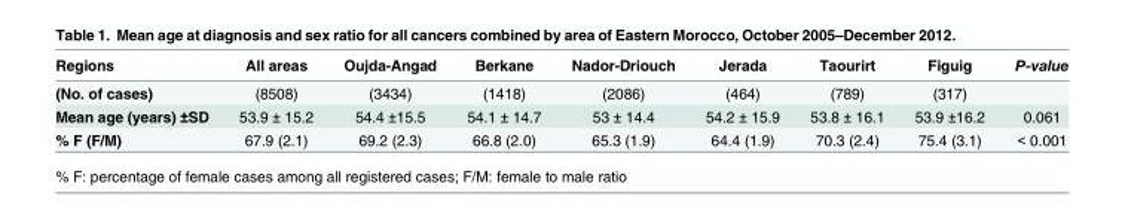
<table><thead><tr><td>Regions</td><td>All areas</td><td>Oujda-Angad</td><td>Berkane</td><td>Nador-Driouch</td><td>Jerada</td><td>Taourirt</td><td>Figuig</td><td>P-value</td></tr></thead><tbody><tr><td>(No. of cases)</td><td>(8508)</td><td>(3434)</td><td>(1418)</td><td>(2086)</td><td>(464)</td><td>(789)</td><td>(317)</td><td></td></tr><tr><td>Mean age (years) ±SD</td><td>53.9 ± 15.2</td><td>54.4 ±15.5</td><td>54.1 ± 14.7</td><td>53 ± 14.4</td><td>54.2 ± 15.9</td><td>53.8 ± 16.1</td><td>53.9 ±16.2</td><td>0.061</td></tr><tr><td>% F (F/M)</td><td>67.9 (2.1)</td><td>69.2 (2.3)</td><td>66.8 (2.0)</td><td>65.3 (1.9)</td><td>64.4 (1.9)</td><td>70.3 (2.4)</td><td>75.4 (3.1)</td><td>&lt; 0.001</td></tr></tbody></table>